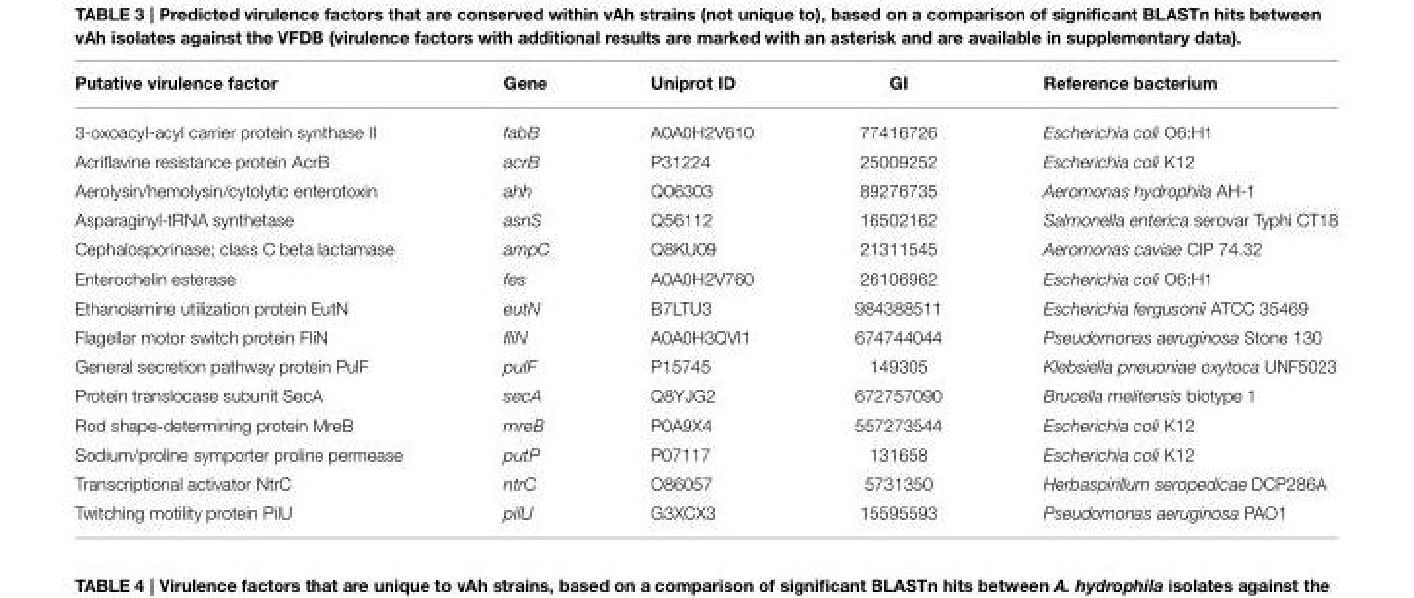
<table><thead><tr><td>Putative virulence factor</td><td>Gene</td><td>Uniprot ID</td><td>GI</td><td>Reference bacterium</td></tr></thead><tbody><tr><td>3-oxoacyl-acyl carrier protein synthase II</td><td>fabB</td><td>A0A0H2V610</td><td>77416726</td><td>Escherichia coli O6:H1</td></tr><tr><td>Acriflavine resistance protein AcrB</td><td>acrB</td><td>P31224</td><td>25009252</td><td>Escherichia coli K12</td></tr><tr><td>Aerolysin/hemolysin/cytolytic enterotoxin</td><td>ahh</td><td>Q06303</td><td>89276735</td><td>Aeromonas hydrophila AH-1</td></tr><tr><td>Asparaginyl-tRNA synthetase</td><td>asnS</td><td>Q56112</td><td>16502162</td><td>Salmonella enterica serovar Typhi CT18</td></tr><tr><td>Cephalosporinase; class C beta lactamase</td><td>ampC</td><td>Q8KU09</td><td>21311545</td><td>Aeromonas caviae CIP 74.32</td></tr><tr><td>Enterochelin esterase</td><td>fes</td><td>A0A0H2V760</td><td>26106962</td><td>Escherichia coli O6:H1</td></tr><tr><td>Ethanolamine utilization protein EutN</td><td>eutN</td><td>B7LTU3</td><td>984388511</td><td>Escherichia fergusonii ATCC 35469</td></tr><tr><td>Flagellar motor switch protein FliN</td><td>fliN</td><td>A0A0H3QVI1</td><td>674744044</td><td>Pseudomonas aeruginosa Stone 130</td></tr><tr><td>General secretion pathway protein PulF</td><td>pulF</td><td>P15745</td><td>149305</td><td>Klebsiella pneuoniae oxytoca UNF5023</td></tr><tr><td>Protein translocase subunit SecA</td><td>secA</td><td>Q8YJG2</td><td>672757090</td><td>Brucella melitensis biotype 1</td></tr><tr><td>Rod shape-determining protein MreB</td><td>mreB</td><td>P0A9X4</td><td>557273544</td><td>Escherichia coli K12</td></tr><tr><td>Sodium/proline symporter proline permease</td><td>putP</td><td>P07117</td><td>131658</td><td>Escherichia coli K12</td></tr><tr><td>Transcriptional activator NtrC</td><td>ntrC</td><td>O86057</td><td>5731350</td><td>Herbaspirillum seropedicae DCP286A</td></tr><tr><td>Twitching motility protein PilU</td><td>pilU</td><td>G3XCX3</td><td>15595593</td><td>Pseudomonas aeruginosa PAO1</td></tr></tbody></table>